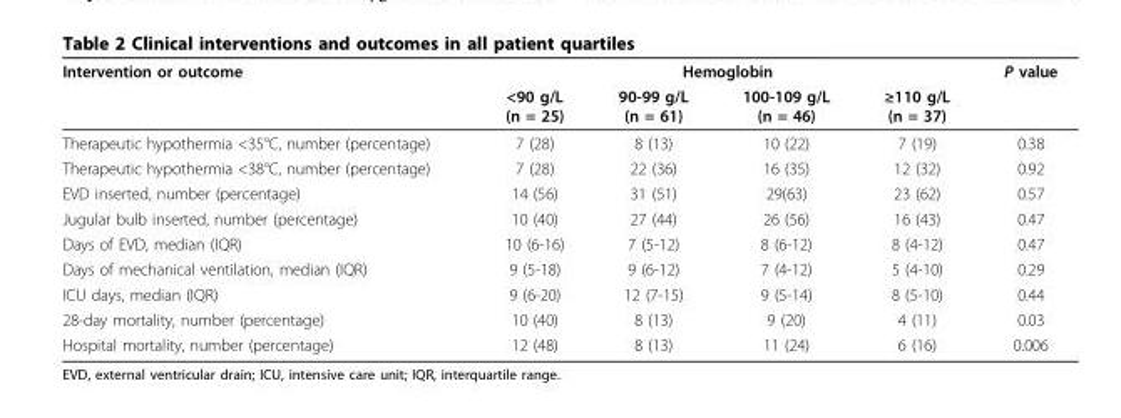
<table><thead><tr><td rowspan="2">Intervention or outcome</td><td colspan="4">Hemoglobin</td><td rowspan="2">P value</td></tr><tr><td>&lt;90 g/L (n = 25)</td><td>90-99 g/L (n = 61)</td><td>100-109 g/L (n = 46)</td><td>≥110 g/L (n = 37)</td></tr></thead><tbody><tr><td>Therapeutic hypothermia &lt;35°C, number (percentage)</td><td>7 (28)</td><td>8 (13)</td><td>10 (22)</td><td>7 (19)</td><td>0.38</td></tr><tr><td>Therapeutic hypothermia &lt;38°C, number (percentage)</td><td>7 (28)</td><td>22 (36)</td><td>16 (35)</td><td>12 (32)</td><td>0.92</td></tr><tr><td>EVD inserted, number (percentage)</td><td>14 (56)</td><td>31 (51)</td><td>29(63)</td><td>23 (62)</td><td>0.57</td></tr><tr><td>Jugular bulb inserted, number (percentage)</td><td>10 (40)</td><td>27 (44)</td><td>26 (56)</td><td>16 (43)</td><td>0.47</td></tr><tr><td>Days of EVD, median (IQR)</td><td>10 (6-16)</td><td>7 (5-12)</td><td>8 (6-12)</td><td>8 (4-12)</td><td>0.47</td></tr><tr><td>Days of mechanical ventilation, median (IQR)</td><td>9 (5-18)</td><td>9 (6-12)</td><td>7 (4-12)</td><td>5 (4-10)</td><td>0.29</td></tr><tr><td>ICU days, median (IQR)</td><td>9 (6-20)</td><td>12 (7-15)</td><td>9 (5-14)</td><td>8 (5-10)</td><td>0.44</td></tr><tr><td>28-day mortality, number (percentage)</td><td>10 (40)</td><td>8 (13)</td><td>9 (20)</td><td>4 (11)</td><td>0.03</td></tr><tr><td>Hospital mortality, number (percentage)</td><td>12 (48)</td><td>8 (13)</td><td>11 (24)</td><td>6 (16)</td><td>0.006</td></tr></tbody></table>